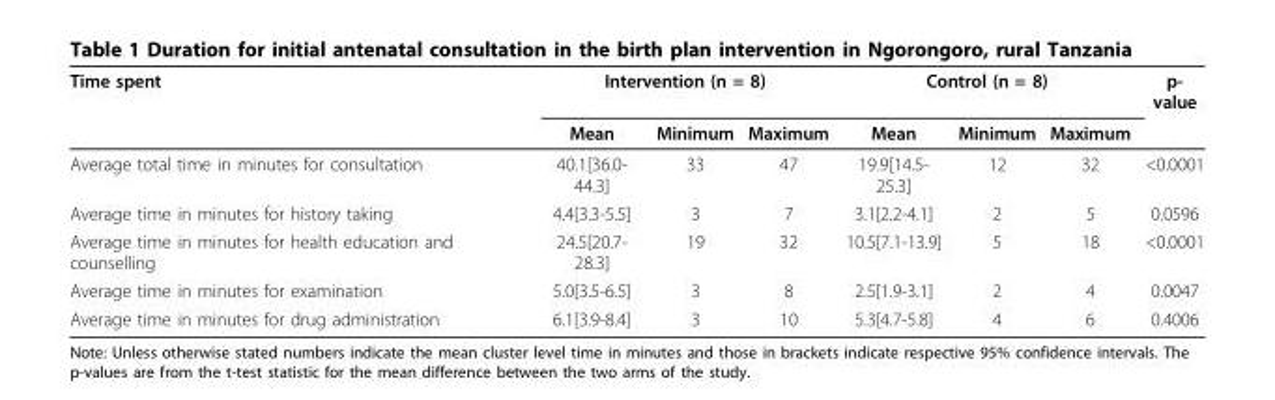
<table><thead><tr><td rowspan="2">Time spent</td><td colspan="3">Intervention (n = 8)</td><td colspan="3">Control (n = 8)</td><td rowspan="2">p- value</td></tr><tr><td>Mean</td><td>Minimum</td><td>Maximum</td><td>Mean</td><td>Minimum</td><td>Maximum</td></tr></thead><tbody><tr><td>Average total time in minutes for consultation</td><td>40.1[36.0- 44.3]</td><td>33</td><td>47</td><td>19.9[14.5- 25.3]</td><td>12</td><td>32</td><td>&lt;0.0001</td></tr><tr><td>Average time in minutes for history taking</td><td>4.4[3.3-5.5]</td><td>3</td><td>7</td><td>3.1[2.2-4.1]</td><td>2</td><td>5</td><td>0.0596</td></tr><tr><td>Average time in minutes for health education and counselling</td><td>24.5[20.7- 28.3]</td><td>19</td><td>32</td><td>10.5[7.1-13.9]</td><td>5</td><td>18</td><td>&lt;0.0001</td></tr><tr><td>Average time in minutes for examination</td><td>5.0[3.5-6.5]</td><td>3</td><td>8</td><td>2.5[1.9-3.1]</td><td>2</td><td>4</td><td>0.0047</td></tr><tr><td>Average time in minutes for drug administration</td><td>6.1[3.9-8.4]</td><td>3</td><td>10</td><td>5.3[4.7-5.8]</td><td>4</td><td>6</td><td>0.4006</td></tr></tbody></table>